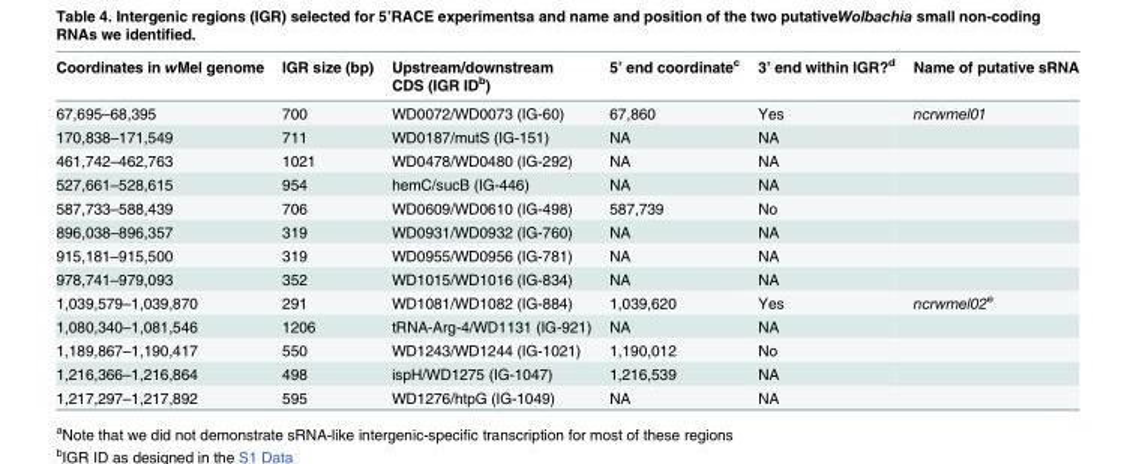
<table><thead><tr><td>Coordinates in wMel genome</td><td>IGR size (bp)</td><td>Upstream/downstream CDS (IGR ID<sup>b</sup>)</td><td>5’ end coordinate<sup>c</sup></td><td>3’ end within IGR?<sup>d</sup></td><td>Name of putative sRNA</td></tr></thead><tbody><tr><td>67,695–68,395</td><td>700</td><td>WD0072/WD0073 (IG-60)</td><td>67,860</td><td>Yes</td><td>ncrwmel01</td></tr><tr><td>170,838–171,549</td><td>711</td><td>WD0187/mutS (IG-151)</td><td>NA</td><td>NA</td><td></td></tr><tr><td>461,742–462,763</td><td>1021</td><td>WD0478/WD0480 (IG-292)</td><td>NA</td><td>NA</td><td></td></tr><tr><td>527,661–528,615</td><td>954</td><td>hemC/sucB (IG-446)</td><td>NA</td><td>NA</td><td></td></tr><tr><td>587,733–588,439</td><td>706</td><td>WD0609/WD0610 (IG-498)</td><td>587,739</td><td>No</td><td></td></tr><tr><td>896,038–896,357</td><td>319</td><td>WD0931/WD0932 (IG-760)</td><td>NA</td><td>NA</td><td></td></tr><tr><td>915,181–915,500</td><td>319</td><td>WD0955/WD0956 (IG-781)</td><td>NA</td><td>NA</td><td></td></tr><tr><td>978,741–979,093</td><td>352</td><td>WD1015/WD1016 (IG-834)</td><td>NA</td><td>NA</td><td></td></tr><tr><td>1,039,579–1,039,870</td><td>291</td><td>WD1081/WD1082 (IG-884)</td><td>1,039,620</td><td>Yes</td><td>ncrwmel02<sup>e</sup></td></tr><tr><td>1,080,340–1,081,546</td><td>1206</td><td>tRNA-Arg-4/WD1131 (IG-921)</td><td>NA</td><td>NA</td><td></td></tr><tr><td>1,189,867–1,190,417</td><td>550</td><td>WD1243/WD1244 (IG-1021)</td><td>1,190,012</td><td>No</td><td></td></tr><tr><td>1,216,366–1,216,864</td><td>498</td><td>ispH/WD1275 (IG-1047)</td><td>1,216,539</td><td>NA</td><td></td></tr><tr><td>1,217,297–1,217,892</td><td>595</td><td>WD1276/htpG (IG-1049)</td><td>NA</td><td>NA</td><td></td></tr></tbody></table>